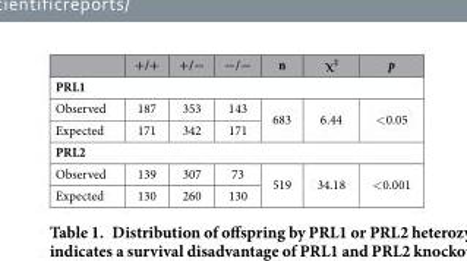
<table><thead><tr><td></td><td>+/+</td><td>+/−</td><td>−/−</td><td>n</td><td>χ<sup>2</sup></td><td>p</td></tr></thead><tbody><tr><td colspan="7">PRL1</td></tr><tr><td>Observed</td><td>187</td><td>353</td><td>143</td><td rowspan="2">683</td><td rowspan="2">6.44</td><td rowspan="2">&lt; 0.05</td></tr><tr><td>Expected</td><td>171</td><td>342</td><td>171</td></tr><tr><td colspan="7">PRL2</td></tr><tr><td>Observed</td><td>139</td><td>307</td><td>73</td><td rowspan="2">519</td><td rowspan="2">34.18</td><td rowspan="2">&lt; 0.001</td></tr><tr><td>Expected</td><td>130</td><td>260</td><td>130</td></tr></tbody></table>